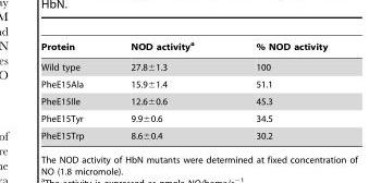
<table><thead><tr><td>Protein</td><td>NOD activity<sup>a</sup></td><td>% NOD activity</td></tr></thead><tbody><tr><td>Wild type</td><td>27.8±1.3</td><td><sup>100</sup></td></tr><tr><td>PheE15Ala</td><td>15.9±1.4</td><td>51.1</td></tr><tr><td>PheE15Ile</td><td>12.6±0.6</td><td>45.3</td></tr><tr><td>PheE15Tyr</td><td>9.9±0.6</td><td>34.5</td></tr><tr><td>PheE15Trp</td><td>8.6±0.4</td><td>30.2</td></tr></tbody></table>